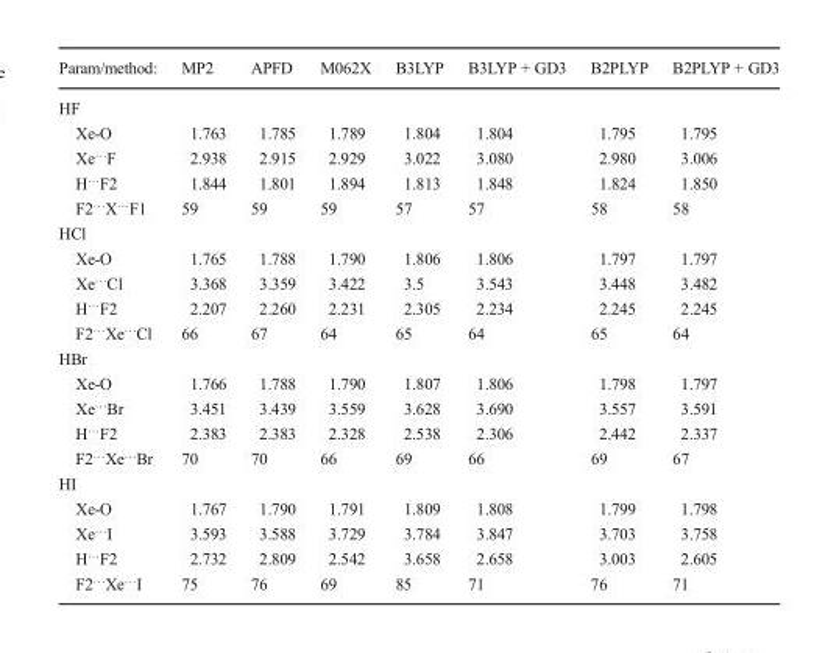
<table><thead><tr><td>Param/method:</td><td>MP2</td><td>APFD</td><td>M062X</td><td>B3LYP</td><td>B3LYP + GD3</td><td>B2PLYP</td><td>B2PLYP + GD3</td></tr></thead><tbody><tr><td colspan="8">HF</td></tr><tr><td>Xe-O</td><td>1.763</td><td>1.785</td><td>1.789</td><td>1.804</td><td>1.804</td><td>1.795</td><td>1.795</td></tr><tr><td>Xe<sup>…</sup>F</td><td>2.938</td><td>2.915</td><td>2.929</td><td>3.022</td><td>3.080</td><td>2.980</td><td>3.006</td></tr><tr><td>H<sup>…</sup>F2</td><td>1.844</td><td>1.801</td><td>1.894</td><td>1.813</td><td>1.848</td><td>1.824</td><td>1.850</td></tr><tr><td>F2<sup>…</sup>X<sup>…</sup>F1</td><td>59</td><td>59</td><td>59</td><td>57</td><td>57</td><td>58</td><td>58</td></tr><tr><td colspan="8">HCl</td></tr><tr><td>Xe-O</td><td>1.765</td><td>1.788</td><td>1.790</td><td>1.806</td><td>1.806</td><td>1.797</td><td>1.797</td></tr><tr><td>Xe<sup>…</sup>Cl</td><td>3.368</td><td>3.359</td><td>3.422</td><td>3.5</td><td>3.543</td><td>3.448</td><td>3.482</td></tr><tr><td>H<sup>…</sup>F2</td><td>2.207</td><td>2.260</td><td>2.231</td><td>2.305</td><td>2.234</td><td>2.245</td><td>2.245</td></tr><tr><td>F2<sup>…</sup>Xe<sup>…</sup>Cl</td><td>66</td><td>67</td><td>64</td><td>65</td><td>64</td><td>65</td><td>64</td></tr><tr><td colspan="8">HBr</td></tr><tr><td>Xe-O</td><td>1.766</td><td>1.788</td><td>1.790</td><td>1.807</td><td>1.806</td><td>1.798</td><td>1.797</td></tr><tr><td>Xe<sup>…</sup>Br</td><td>3.451</td><td>3.439</td><td>3.559</td><td>3.628</td><td>3.690</td><td>3.557</td><td>3.591</td></tr><tr><td>H<sup>…</sup>F2</td><td>2.383</td><td>2.383</td><td>2.328</td><td>2.538</td><td>2.306</td><td>2.442</td><td>2.337</td></tr><tr><td>F2<sup>…</sup>Xe<sup>…</sup>Br</td><td>70</td><td>70</td><td>66</td><td>69</td><td>66</td><td>69</td><td>67</td></tr><tr><td colspan="8">HI</td></tr><tr><td>Xe-O</td><td>1.767</td><td>1.790</td><td>1.791</td><td>1.809</td><td>1.808</td><td>1.799</td><td>1.798</td></tr><tr><td>Xe<sup>…</sup>I</td><td>3.593</td><td>3.588</td><td>3.729</td><td>3.784</td><td>3.847</td><td>3.703</td><td>3.758</td></tr><tr><td>H<sup>…</sup>F2</td><td>2.732</td><td>2.809</td><td>2.542</td><td>3.658</td><td>2.658</td><td>3.003</td><td>2.605</td></tr><tr><td>F2<sup>…</sup>Xe<sup>…</sup>I</td><td>75</td><td>76</td><td>69</td><td>85</td><td>71</td><td>76</td><td>71</td></tr></tbody></table>